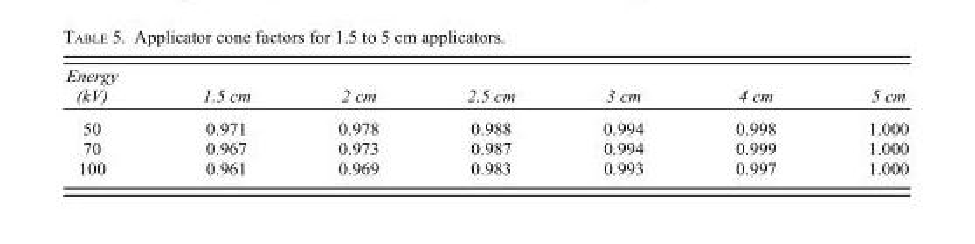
<table><thead><tr><td>Energy (kV)</td><td>1.5 cm</td><td>2 cm</td><td>2.5 cm</td><td>3 cm</td><td>4 cm</td><td>5 cm</td></tr></thead><tbody><tr><td>50</td><td>0.971</td><td>0.978</td><td>0.988</td><td>0.994</td><td>0.998</td><td>1.000</td></tr><tr><td>70</td><td>0.967</td><td>0.973</td><td>0.987</td><td>0.994</td><td>0.999</td><td>1.000</td></tr><tr><td>100</td><td>0.961</td><td>0.969</td><td>0.983</td><td>0.993</td><td>0.997</td><td>1.000</td></tr></tbody></table>